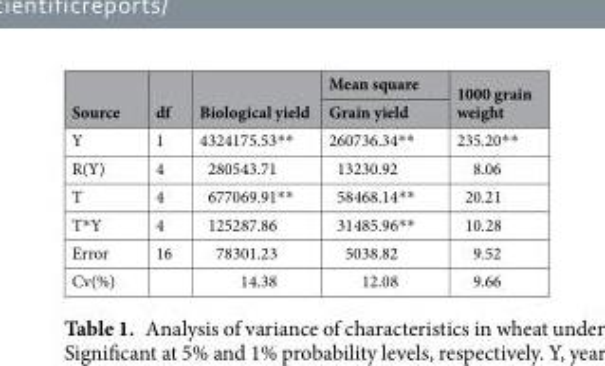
<table><thead><tr><td rowspan="2">Source</td><td rowspan="2">df</td><td rowspan="2">Biological yield</td><td rowspan="2">Mean square Grain yield</td><td rowspan="2">1000 grain weight</td></tr><tr></tr></thead><tbody><tr><td>Y</td><td>1</td><td>4324175.53**</td><td>260736.34**</td><td>235.20**</td></tr><tr><td>R(Y)</td><td>4</td><td>280543.71</td><td>13230.92</td><td>8.06</td></tr><tr><td>T</td><td>4</td><td>677069.91**</td><td>58468.14**</td><td>20.21</td></tr><tr><td>T*Y</td><td>4</td><td>125287.86</td><td>31485.96**</td><td>10.28</td></tr><tr><td>Error</td><td>16</td><td>78301.23</td><td>5038.82</td><td>9.52</td></tr><tr><td>Cv(%)</td><td></td><td>14.38</td><td>12.08</td><td>9.66</td></tr></tbody></table>